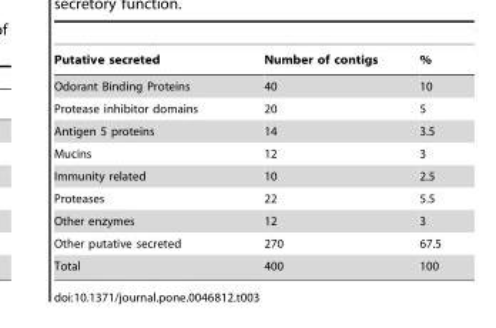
<table><thead><tr><td>Putative secreted</td><td>Number of contigs</td><td>%</td></tr></thead><tbody><tr><td>Odorant Binding Proteins</td><td>40</td><td>10</td></tr><tr><td>Protease inhibitor domains</td><td>20</td><td>5</td></tr><tr><td>Antigen 5 proteins</td><td>14</td><td>3.5</td></tr><tr><td>Mucins</td><td>12</td><td>3</td></tr><tr><td>Immunity related</td><td>10</td><td>2.5</td></tr><tr><td>Proteases</td><td>22</td><td>5.5</td></tr><tr><td>Other enzymes</td><td>12</td><td>3</td></tr><tr><td>Other putative secreted</td><td>270</td><td>67.5</td></tr><tr><td>Total</td><td>400</td><td>100</td></tr></tbody></table>